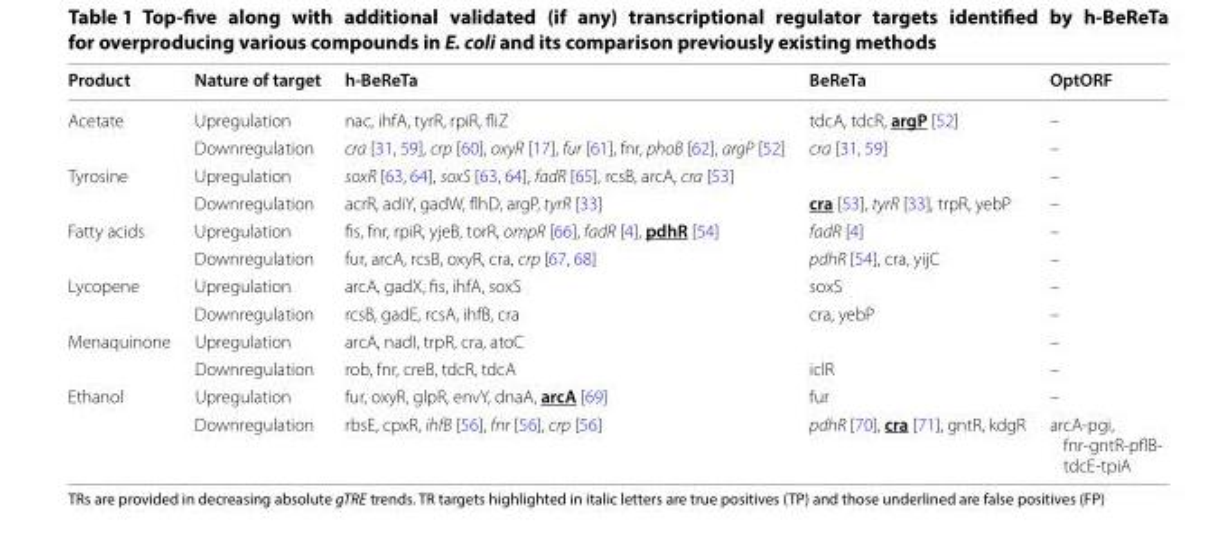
<table><thead><tr><td>Product</td><td>Nature of target</td><td>h‑BeReTa</td><td>BeReTa</td><td>OptORF</td></tr></thead><tbody><tr><td rowspan="2">Acetate</td><td>Upregulation</td><td>nac, ihfA, tyrR, rpiR, fliZ</td><td>tdcA, tdcR, argP [52]</td><td>–</td></tr><tr><td>Downregulation</td><td>cra [31, 59], crp [60], oxyR [17], fur [61], fnr, phoB [62], argP [52]</td><td>cra [31, 59]</td><td>–</td></tr><tr><td rowspan="2">Tyrosine</td><td>Upregulation</td><td>soxR [63, 64], soxS [63, 64], fadR [65], rcsB, arcA, cra [53]</td><td></td><td>–</td></tr><tr><td>Downregulation</td><td>acrR, adiY, gadW, flhD, argP, tyrR [33]</td><td>cra [53], tyrR [33], trpR, yebP</td><td>–</td></tr><tr><td rowspan="2">Fatty acids</td><td>Upregulation</td><td>fis, fnr, rpiR, yjeB, torR, ompR [66], fadR [4], pdhR [54]</td><td>fadR [4]</td><td>–</td></tr><tr><td>Downregulation</td><td>fur, arcA, rcsB, oxyR, cra, crp [67, 68]</td><td>pdhR [54], cra, yijC</td><td>–</td></tr><tr><td rowspan="2">Lycopene</td><td>Upregulation</td><td>arcA, gadX, fis, ihfA, soxS</td><td>soxS</td><td>–</td></tr><tr><td>Downregulation</td><td>rcsB, gadE, rcsA, ihfB, cra</td><td>cra, yebP</td><td>–</td></tr><tr><td rowspan="2">Menaquinone</td><td>Upregulation</td><td>arcA, nadI, trpR, cra, atoC</td><td></td><td>–</td></tr><tr><td>Downregulation</td><td>rob, fnr, creB, tdcR, tdcA</td><td>iclR</td><td>–</td></tr><tr><td rowspan="2">Ethanol</td><td>Upregulation</td><td>fur, oxyR, glpR, envY, dnaA, arcA [69]</td><td>fur</td><td>–</td></tr><tr><td>Downregulation</td><td>rbsE, cpxR, ihfB [56], fnr [56], crp [56]</td><td>pdhR [70], cra [71], gntR, kdgR</td><td>arcA‑pgi, fnr‑gntR‑pflB‑ tdcE‑tpiA</td></tr></tbody></table>